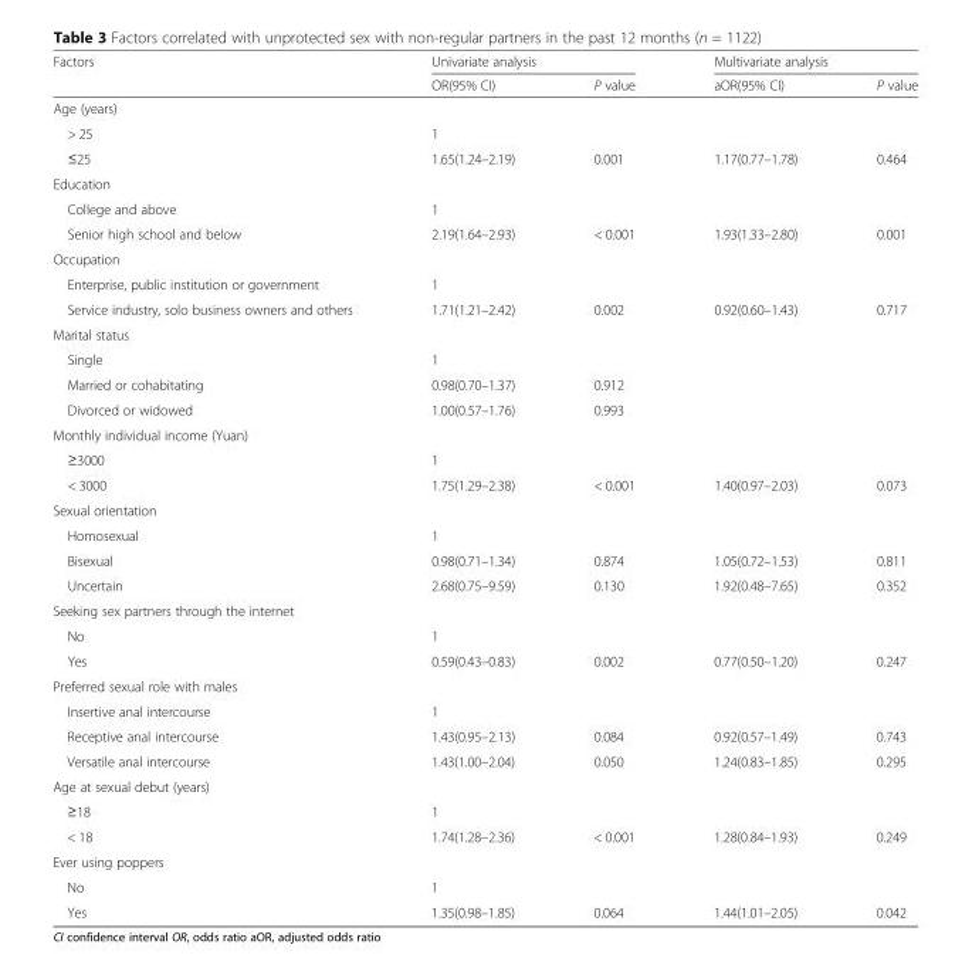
<table><thead><tr><td rowspan="2">Factors</td><td colspan="2">Univariate analysis</td><td colspan="2">Multivariate analysis</td></tr><tr><td>OR(95% CI)</td><td>P value</td><td>aOR(95% CI)</td><td>P value</td></tr></thead><tbody><tr><td colspan="5">Age (years)</td></tr><tr><td>&gt; 25</td><td>1</td><td></td><td></td><td></td></tr><tr><td>≤25</td><td>1.65(1.24–2.19)</td><td>0.001</td><td>1.17(0.77–1.78)</td><td>0.464</td></tr><tr><td colspan="5">Education</td></tr><tr><td>College and above</td><td>1</td><td></td><td></td><td></td></tr><tr><td>Senior high school and below</td><td>2.19(1.64–2.93)</td><td>&lt; 0.001</td><td>1.93(1.33–2.80)</td><td>0.001</td></tr><tr><td colspan="5">Occupation</td></tr><tr><td>Enterprise, public institution or government</td><td>1</td><td></td><td></td><td></td></tr><tr><td>Service industry, solo business owners and others</td><td>1.71(1.21–2.42)</td><td>0.002</td><td>0.92(0.60–1.43)</td><td>0.717</td></tr><tr><td colspan="5">Marital status</td></tr><tr><td>Single</td><td>1</td><td></td><td></td><td></td></tr><tr><td>Married or cohabitating</td><td>0.98(0.70–1.37)</td><td>0.912</td><td></td><td></td></tr><tr><td>Divorced or widowed</td><td>1.00(0.57–1.76)</td><td>0.993</td><td></td><td></td></tr><tr><td colspan="5">Monthly individual income (Yuan)</td></tr><tr><td>≥3000</td><td>1</td><td></td><td></td><td></td></tr><tr><td>&lt; 3000</td><td>1.75(1.29–2.38)</td><td>&lt; 0.001</td><td>1.40(0.97–2.03)</td><td>0.073</td></tr><tr><td colspan="5">Sexual orientation</td></tr><tr><td>Homosexual</td><td>1</td><td></td><td></td><td></td></tr><tr><td>Bisexual</td><td>0.98(0.71–1.34)</td><td>0.874</td><td>1.05(0.72–1.53)</td><td>0.811</td></tr><tr><td>Uncertain</td><td>2.68(0.75–9.59)</td><td>0.130</td><td>1.92(0.48–7.65)</td><td>0.352</td></tr><tr><td colspan="5">Seeking sex partners through the internet</td></tr><tr><td>No</td><td>1</td><td></td><td></td><td></td></tr><tr><td>Yes</td><td>0.59(0.43–0.83)</td><td>0.002</td><td>0.77(0.50–1.20)</td><td>0.247</td></tr><tr><td colspan="5">Preferred sexual role with males</td></tr><tr><td>Insertive anal intercourse</td><td>1</td><td></td><td></td><td></td></tr><tr><td>Receptive anal intercourse</td><td>1.43(0.95–2.13)</td><td>0.084</td><td>0.92(0.57–1.49)</td><td>0.743</td></tr><tr><td>Versatile anal intercourse</td><td>1.43(1.00–2.04)</td><td>0.050</td><td>1.24(0.83–1.85)</td><td>0.295</td></tr><tr><td colspan="5">Age at sexual debut (years)</td></tr><tr><td>≥18</td><td>1</td><td></td><td></td><td></td></tr><tr><td>&lt; 18</td><td>1.74(1.28–2.36)</td><td>&lt; 0.001</td><td>1.28(0.84–1.93)</td><td>0.249</td></tr><tr><td colspan="5">Ever using poppers</td></tr><tr><td>No</td><td>1</td><td></td><td></td><td></td></tr><tr><td>Yes</td><td>1.35(0.98–1.85)</td><td>0.064</td><td>1.44(1.01–2.05)</td><td>0.042</td></tr></tbody></table>